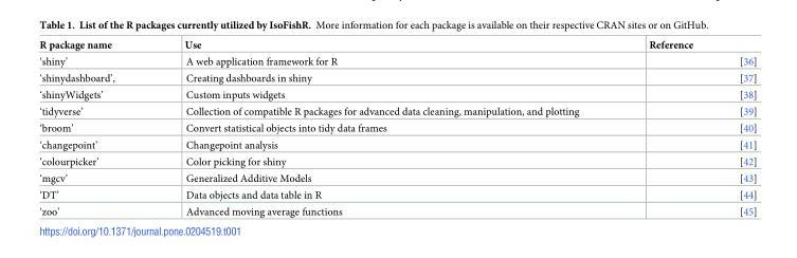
<table><thead><tr><td>R package name</td><td>Use</td><td>Reference</td></tr></thead><tbody><tr><td>‘shiny’</td><td>A web application framework for R</td><td>[36]</td></tr><tr><td>‘shinydashboard’,</td><td>Creating dashboards in shiny</td><td>[37]</td></tr><tr><td>‘shinyWidgets’</td><td>Custom inputs widgets</td><td>[38]</td></tr><tr><td>‘tidyverse’</td><td>Collection of compatible R packages for advanced data cleaning, manipulation, and plotting</td><td>[39]</td></tr><tr><td>‘broom’</td><td>Convert statistical objects into tidy data frames</td><td>[40]</td></tr><tr><td>‘changepoint’</td><td>Changepoint analysis</td><td>[41]</td></tr><tr><td>‘colourpicker’</td><td>Color picking for shiny</td><td>[42]</td></tr><tr><td>‘mgcv’</td><td>Generalized Additive Models</td><td>[43]</td></tr><tr><td>‘DT’</td><td>Data objects and data table in R</td><td>[44]</td></tr><tr><td>‘zoo’</td><td>Advanced moving average functions</td><td>[45]</td></tr></tbody></table>